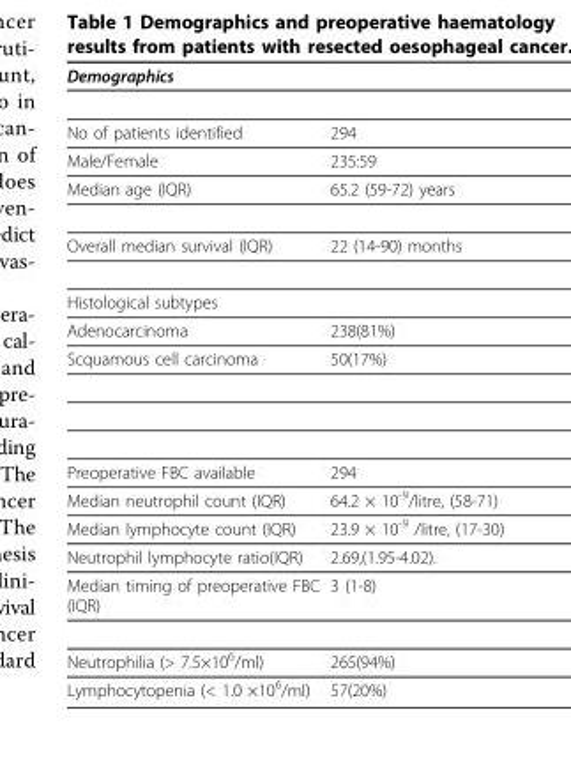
<table><thead><tr><td colspan="2">Demographics</td></tr><tr><td>No of patients identified</td><td>294</td></tr></thead><tbody><tr><td>Male/Female</td><td>235:59</td></tr><tr><td>Median age (IQR)</td><td>65.2 (59-72) years</td></tr><tr><td>Overall median survival (IQR)</td><td>22 (14-90) months</td></tr><tr><td colspan="2">Histological subtypes</td></tr><tr><td>Adenocarcinoma</td><td>238(81%)</td></tr><tr><td>Scquamous cell carcinoma</td><td>50(17%)</td></tr><tr><td>Preoperative FBC available</td><td>294</td></tr><tr><td>Median neutrophil count (IQR)</td><td>64.2 × 10-9/litre, (58-71)</td></tr><tr><td>Median lymphocyte count (IQR)</td><td>23.9 × 10-9 /litre, (17-30)</td></tr><tr><td>Neutrophil lymphocyte ratio(IQR)</td><td>2.69,(1.95-4.02).</td></tr><tr><td>Median timing of preoperative FBC (IQR)</td><td>3 (1-8)</td></tr><tr><td>Neutrophilia (&gt; 7.5×106/ml)</td><td>265(94%)</td></tr><tr><td>Lymphocytopenia (&lt; 1.0 ×106/ml)</td><td>57(20%)</td></tr></tbody></table>